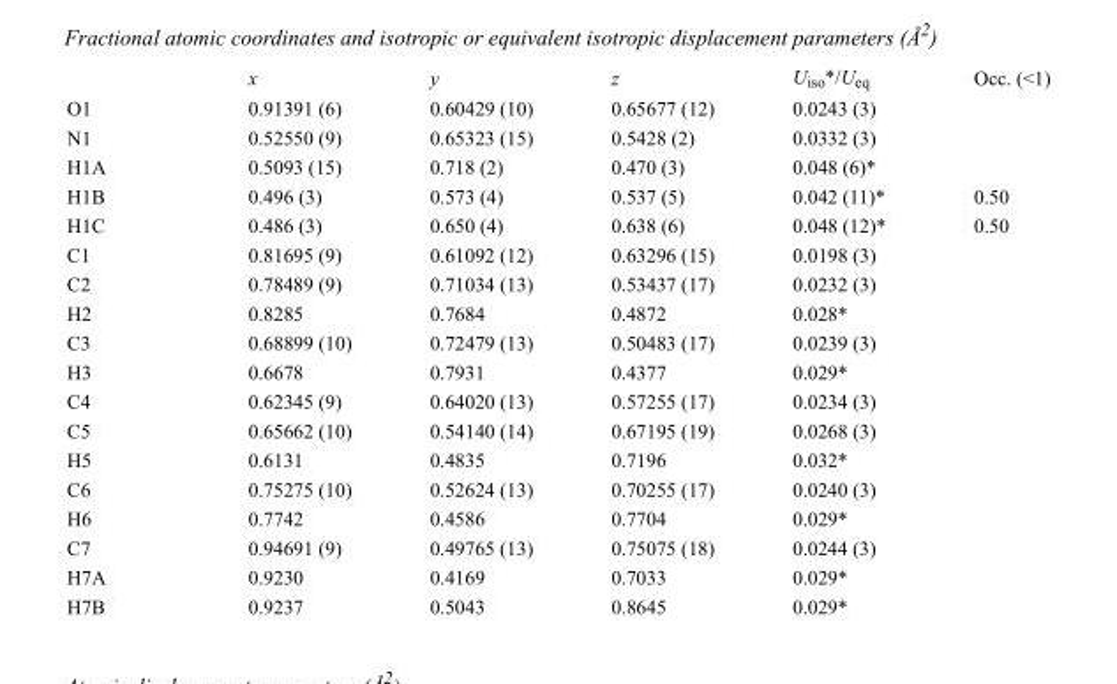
<table><thead><tr><td></td><td>x</td><td>y</td><td>z</td><td>U<sub>iso</sub>*/U<sub>eq</sub></td><td>Occ. (&lt;1)</td></tr></thead><tbody><tr><td>O1</td><td>0.91391 (6)</td><td>0.60429 (10)</td><td>0.65677 (12)</td><td>0.0243 (3)</td><td></td></tr><tr><td>N1</td><td>0.52550 (9)</td><td>0.65323 (15)</td><td>0.5428 (2)</td><td>0.0332 (3)</td><td></td></tr><tr><td>H1A</td><td>0.5093 (15)</td><td>0.718 (2)</td><td>0.470 (3)</td><td>0.048 (6)*</td><td></td></tr><tr><td>H1B</td><td>0.496 (3)</td><td>0.573 (4)</td><td>0.537 (5)</td><td>0.042 (11)*</td><td>0.50</td></tr><tr><td>H1C</td><td>0.486 (3)</td><td>0.650 (4)</td><td>0.638 (6)</td><td>0.048 (12)*</td><td>0.50</td></tr><tr><td>C1</td><td>0.81695 (9)</td><td>0.61092 (12)</td><td>0.63296 (15)</td><td>0.0198 (3)</td><td></td></tr><tr><td>C2</td><td>0.78489 (9)</td><td>0.71034 (13)</td><td>0.53437 (17)</td><td>0.0232 (3)</td><td></td></tr><tr><td>H2</td><td>0.8285</td><td>0.7684</td><td>0.4872</td><td>0.028*</td><td></td></tr><tr><td>C3</td><td>0.68899 (10)</td><td>0.72479 (13)</td><td>0.50483 (17)</td><td>0.0239 (3)</td><td></td></tr><tr><td>H3</td><td>0.6678</td><td>0.7931</td><td>0.4377</td><td>0.029*</td><td></td></tr><tr><td>C4</td><td>0.62345 (9)</td><td>0.64020 (13)</td><td>0.57255 (17)</td><td>0.0234 (3)</td><td></td></tr><tr><td>C5</td><td>0.65662 (10)</td><td>0.54140 (14)</td><td>0.67195 (19)</td><td>0.0268 (3)</td><td></td></tr><tr><td>H5</td><td>0.6131</td><td>0.4835</td><td>0.7196</td><td>0.032*</td><td></td></tr><tr><td>C6</td><td>0.75275 (10)</td><td>0.52624 (13)</td><td>0.70255 (17)</td><td>0.0240 (3)</td><td></td></tr><tr><td>H6</td><td>0.7742</td><td>0.4586</td><td>0.7704</td><td>0.029*</td><td></td></tr><tr><td>C7</td><td>0.94691 (9)</td><td>0.49765 (13)</td><td>0.75075 (18)</td><td>0.0244 (3)</td><td></td></tr><tr><td>H7A</td><td>0.9230</td><td>0.4169</td><td>0.7033</td><td>0.029*</td><td></td></tr><tr><td>H7B</td><td>0.9237</td><td>0.5043</td><td>0.8645</td><td>0.029*</td><td></td></tr></tbody></table>